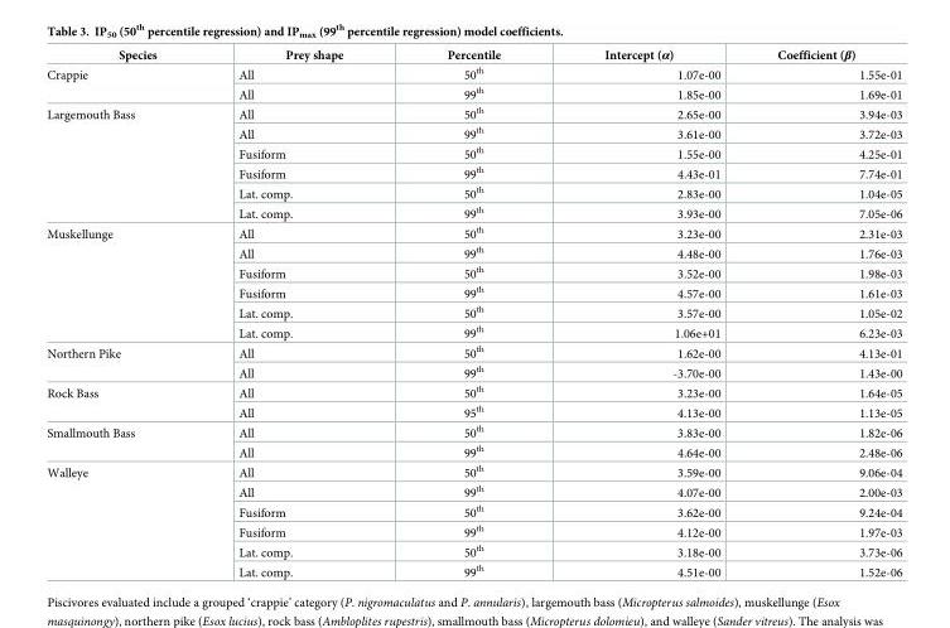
<table><thead><tr><td>Species</td><td>Prey shape</td><td>Percentile</td><td>Intercept (α)</td><td>Coefficient (β)</td></tr></thead><tbody><tr><td rowspan="2">Crappie</td><td>All</td><td>50<sup>th</sup></td><td>1.07e-00</td><td>1.55e-01</td></tr><tr><td>All</td><td>99<sup>th</sup></td><td>1.85e-00</td><td>1.69e-01</td></tr><tr><td rowspan="6">Largemouth Bass</td><td>All</td><td>50<sup>th</sup></td><td>2.65e-00</td><td>3.94e-03</td></tr><tr><td>All</td><td>99<sup>th</sup></td><td>3.61e-00</td><td>3.72e-03</td></tr><tr><td>Fusiform</td><td>50<sup>th</sup></td><td>1.55e-00</td><td>4.25e-01</td></tr><tr><td>Fusiform</td><td>99<sup>th</sup></td><td>4.43e-01</td><td>7.74e-01</td></tr><tr><td>Lat. comp.</td><td>50<sup>th</sup></td><td>2.83e-00</td><td>1.04e-05</td></tr><tr><td>Lat. comp.</td><td>99<sup>th</sup></td><td>3.93e-00</td><td>7.05e-06</td></tr><tr><td rowspan="6">Muskellunge</td><td>All</td><td>50<sup>th</sup></td><td>3.23e-00</td><td>2.31e-03</td></tr><tr><td>All</td><td>99<sup>th</sup></td><td>4.48e-00</td><td>1.76e-03</td></tr><tr><td>Fusiform</td><td>50<sup>th</sup></td><td>3.52e-00</td><td>1.98e-03</td></tr><tr><td>Fusiform</td><td>99<sup>th</sup></td><td>4.57e-00</td><td>1.61e-03</td></tr><tr><td>Lat. comp.</td><td>50<sup>th</sup></td><td>3.57e-00</td><td>1.05e-02</td></tr><tr><td>Lat. comp.</td><td>99<sup>th</sup></td><td>1.06e+01</td><td>6.23e-03</td></tr><tr><td rowspan="2">Northern Pike</td><td>All</td><td>50<sup>th</sup></td><td>1.62e-00</td><td>4.13e-01</td></tr><tr><td>All</td><td>99<sup>th</sup></td><td>-3.70e-00</td><td>1.43e-00</td></tr><tr><td rowspan="2">Rock Bass</td><td>All</td><td>50<sup>th</sup></td><td>3.23e-00</td><td>1.64e-05</td></tr><tr><td>All</td><td>95<sup>th</sup></td><td>4.13e-00</td><td>1.13e-05</td></tr><tr><td rowspan="2">Smallmouth Bass</td><td>All</td><td>50<sup>th</sup></td><td>3.83e-00</td><td>1.82e-06</td></tr><tr><td>All</td><td>99<sup>th</sup></td><td>4.64e-00</td><td>2.48e-06</td></tr><tr><td rowspan="6">Walleye</td><td>All</td><td>50<sup>th</sup></td><td>3.59e-00</td><td>9.06e-04</td></tr><tr><td>All</td><td>99<sup>th</sup></td><td>4.07e-00</td><td>2.00e-03</td></tr><tr><td>Fusiform</td><td>50<sup>th</sup></td><td>3.62e-00</td><td>9.24e-04</td></tr><tr><td>Fusiform</td><td>99<sup>th</sup></td><td>4.12e-00</td><td>1.97e-03</td></tr><tr><td>Lat. comp.</td><td>50<sup>th</sup></td><td>3.18e-00</td><td>3.73e-06</td></tr><tr><td>Lat. comp.</td><td>99<sup>th</sup></td><td>4.51e-00</td><td>1.52e-06</td></tr></tbody></table>